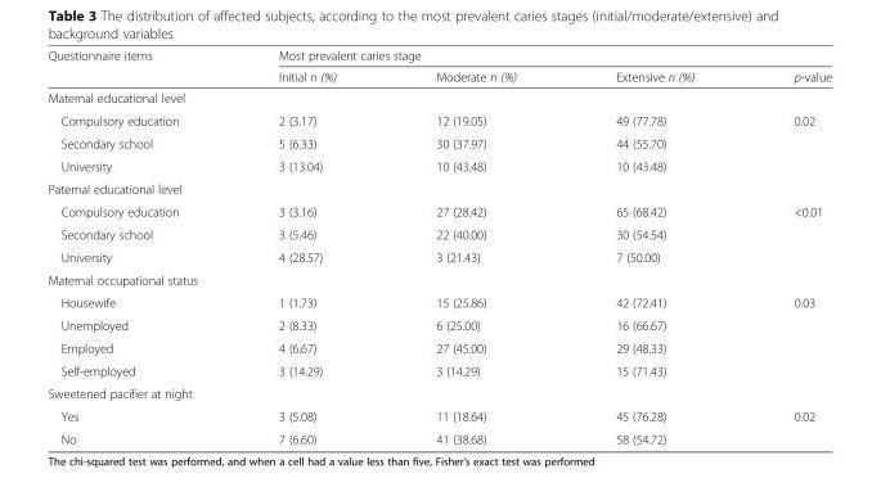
<table><thead><tr><td rowspan="2">Questionnaire items</td><td colspan="4">Most prevalent caries stage</td></tr><tr><td>Initial n (%)</td><td>Moderate n (%)</td><td>Extensive n (%)</td><td>p-value</td></tr></thead><tbody><tr><td colspan="5">Maternal educational level</td></tr><tr><td>Compulsory education</td><td>2 (3.17)</td><td>12 (19.05)</td><td>49 (77.78)</td><td rowspan="3">0.02</td></tr><tr><td>Secondary school</td><td>5 (6.33)</td><td>30 (37.97)</td><td>44 (55.70)</td></tr><tr><td>University</td><td>3 (13.04)</td><td>10 (43.48)</td><td>10 (43.48)</td></tr><tr><td colspan="5">Paternal educational level</td></tr><tr><td>Compulsory education</td><td>3 (3.16)</td><td>27 (28.42)</td><td>65 (68.42)</td><td rowspan="3">&lt;0.01</td></tr><tr><td>Secondary school</td><td>3 (5.46)</td><td>22 (40.00)</td><td>30 (54.54)</td></tr><tr><td>University</td><td>4 (28.57)</td><td>3 (21.43)</td><td>7 (50.00)</td></tr><tr><td colspan="5">Maternal occupational status</td></tr><tr><td>Housewife</td><td>1 (1.73)</td><td>15 (25.86)</td><td>42 (72.41)</td><td rowspan="4">0.03</td></tr><tr><td>Unemployed</td><td>2 (8.33)</td><td>6 (25.00)</td><td>16 (66.67)</td></tr><tr><td>Employed</td><td>4 (6.67)</td><td>27 (45.00)</td><td>29 (48.33)</td></tr><tr><td>Self-employed</td><td>3 (14.29)</td><td>3 (14.29)</td><td>15 (71.43)</td></tr><tr><td colspan="5">Sweetened pacifier at night</td></tr><tr><td>Yes</td><td>3 (5.08)</td><td>11 (18.64)</td><td>45 (76.28)</td><td rowspan="2">0.02</td></tr><tr><td>No</td><td>7 (6.60)</td><td>41 (38.68)</td><td>58 (54.72)</td></tr></tbody></table>